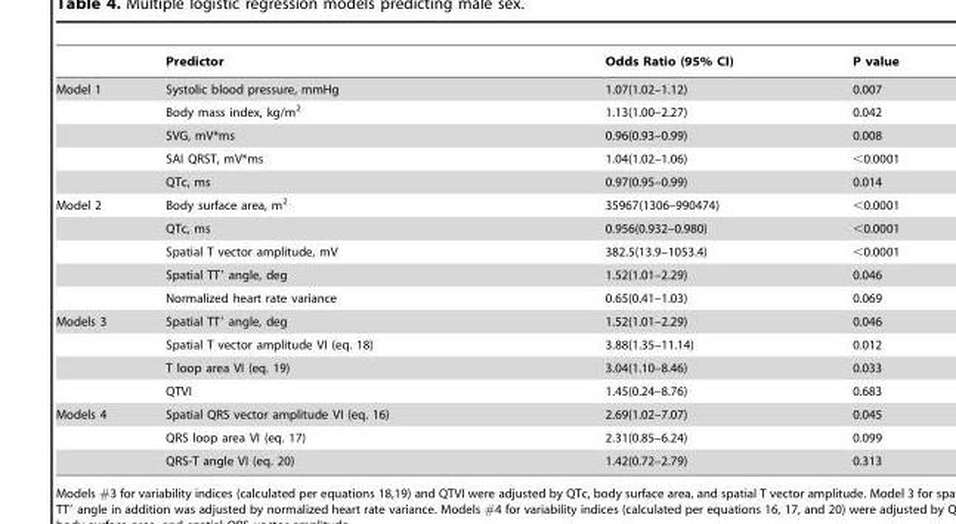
<table><thead><tr><td></td><td>Predictor</td><td>Odds Ratio (95% CI)</td><td>P value</td></tr></thead><tbody><tr><td rowspan="5">Model 1</td><td>Systolic blood pressure, mmHg</td><td>1.07(1.02–1.12)</td><td>0.007</td></tr><tr><td>Body mass index, kg/m<sup>2</sup></td><td>1.13(1.00–2.27)</td><td>0.042</td></tr><tr><td>SVG, mV*ms</td><td>0.96(0.93–0.99)</td><td>0.008</td></tr><tr><td>SAI QRST, mV*ms</td><td>1.04(1.02–1.06)</td><td>&lt;0.0001</td></tr><tr><td>QTc, ms</td><td>0.97(0.95–0.99)</td><td>0.014</td></tr><tr><td rowspan="5">Model 2</td><td>Body surface area, m<sup>2</sup></td><td>35967(1306–990474)</td><td>&lt;0.0001</td></tr><tr><td>QTc, ms</td><td>0.956(0.932–0.980)</td><td>&lt;0.0001</td></tr><tr><td>Spatial T vector amplitude, mV</td><td>382.5(13.9–1053.4)</td><td>&lt;0.0001</td></tr><tr><td>Spatial TT′ angle, deg</td><td>1.52(1.01–2.29)</td><td>0.046</td></tr><tr><td>Normalized heart rate variance</td><td>0.65(0.41–1.03)</td><td>0.069</td></tr><tr><td rowspan="4">Models 3</td><td>Spatial TT′ angle, deg</td><td>1.52(1.01–2.29)</td><td>0.046</td></tr><tr><td>Spatial T vector amplitude VI (eq. 18)</td><td>3.88(1.35–11.14)</td><td>0.012</td></tr><tr><td>T loop area VI (eq. 19)</td><td>3.04(1.10–8.46)</td><td>0.033</td></tr><tr><td>QTVI</td><td>1.45(0.24–8.76)</td><td>0.683</td></tr><tr><td rowspan="3">Models 4</td><td>Spatial QRS vector amplitude VI (eq. 16)</td><td>2.69(1.02–7.07)</td><td>0.045</td></tr><tr><td>QRS loop area VI (eq. 17)</td><td>2.31(0.85–6.24)</td><td>0.099</td></tr><tr><td>QRS-T angle VI (eq. 20)</td><td>1.42(0.72–2.79)</td><td>0.313</td></tr></tbody></table>